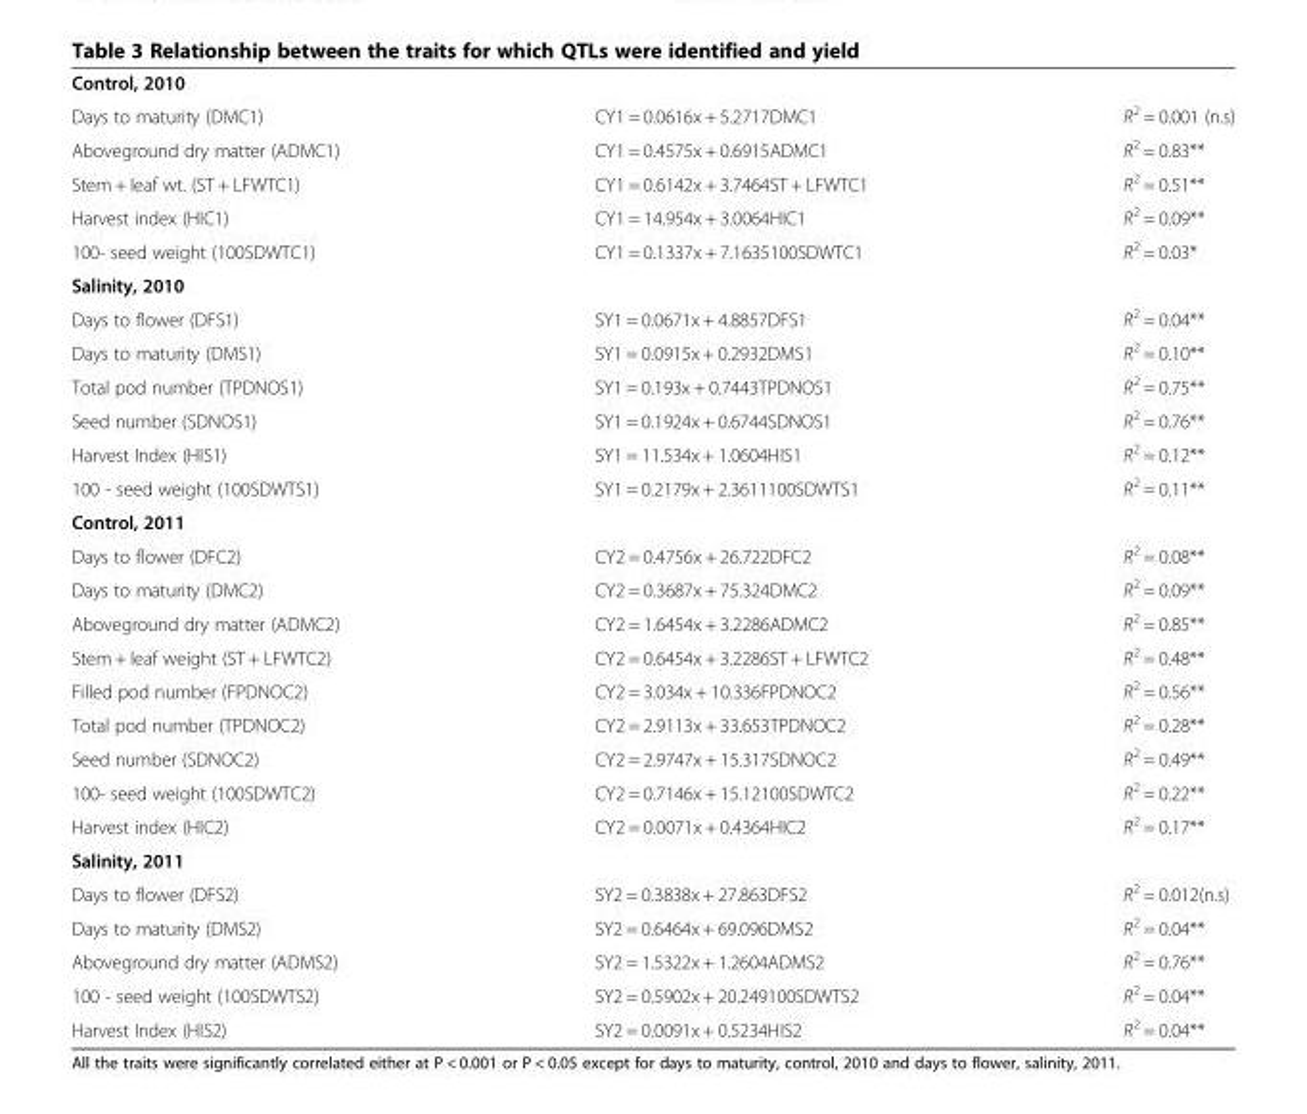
<table><tbody><tr><td colspan="3">Control, 2010</td></tr><tr><td>Days to maturity (DMC1)</td><td>CY1 = 0.0616x + 5.2717DMC1</td><td>R<sup>2</sup> = 0.001 (n.s)</td></tr><tr><td>Aboveground dry matter (ADMC1)</td><td>CY1 = 0.4575x + 0.6915ADMC1</td><td>R<sup>2</sup> = 0.83**</td></tr><tr><td>Stem + leaf wt. (ST + LFWTC1)</td><td>CY1 = 0.6142x + 3.7464ST + LFWTC1</td><td>R<sup>2</sup> = 0.51**</td></tr><tr><td>Harvest index (HIC1)</td><td>CY1 = 14.954x + 3.0064HIC1</td><td>R<sup>2</sup> = 0.09**</td></tr><tr><td>100- seed weight (100SDWTC1)</td><td>CY1 = 0.1337x + 7.1635100SDWTC1</td><td>R<sup>2</sup> = 0.03*</td></tr><tr><td colspan="3">Salinity, 2010</td></tr><tr><td>Days to flower (DFS1)</td><td>SY1 = 0.0671x + 4.8857DFS1</td><td>R<sup>2</sup> = 0.04**</td></tr><tr><td>Days to maturity (DMS1)</td><td>SY1 = 0.0915x + 0.2932DMS1</td><td>R<sup>2</sup> = 0.10**</td></tr><tr><td>Total pod number (TPDNOS1)</td><td>SY1 = 0.193x + 0.7443TPDNOS1</td><td>R<sup>2</sup> = 0.75**</td></tr><tr><td>Seed number (SDNOS1)</td><td>SY1 = 0.1924x + 0.6744SDNOS1</td><td>R<sup>2</sup> = 0.76**</td></tr><tr><td>Harvest Index (HIS1)</td><td>SY1 = 11.534x + 1.0604HIS1</td><td>R<sup>2</sup> = 0.12**</td></tr><tr><td>100 - seed weight (100SDWTS1)</td><td>SY1 = 0.2179x + 2.3611100SDWTS1</td><td>R<sup>2</sup> = 0.11**</td></tr><tr><td colspan="3">Control, 2011</td></tr><tr><td>Days to flower (DFC2)</td><td>CY2 = 0.4756x + 26.722DFC2</td><td>R<sup>2</sup> = 0.08**</td></tr><tr><td>Days to maturity (DMC2)</td><td>CY2 = 0.3687x + 75.324DMC2</td><td>R<sup>2</sup> = 0.09**</td></tr><tr><td>Aboveground dry matter (ADMC2)</td><td>CY2 = 1.6454x + 3.2286ADMC2</td><td>R<sup>2</sup> = 0.85**</td></tr><tr><td>Stem + leaf weight (ST + LFWTC2)</td><td>CY2 = 0.6454x + 3.2286ST + LFWTC2</td><td>R<sup>2</sup> = 0.48**</td></tr><tr><td>Filled pod number (FPDNOC2)</td><td>CY2 = 3.034x + 10.336FPDNOC2</td><td>R<sup>2</sup> = 0.56**</td></tr><tr><td>Total pod number (TPDNOC2)</td><td>CY2 = 2.9113x + 33.653TPDNOC2</td><td>R<sup>2</sup> = 0.28**</td></tr><tr><td>Seed number (SDNOC2)</td><td>CY2 = 2.9747x + 15.317SDNOC2</td><td>R<sup>2</sup> = 0.49**</td></tr><tr><td>100- seed weight (100SDWTC2)</td><td>CY2 = 0.7146x + 15.12100SDWTC2</td><td>R<sup>2</sup> = 0.22**</td></tr><tr><td>Harvest index (HIC2)</td><td>CY2 = 0.0071x + 0.4364HIC2</td><td>R<sup>2</sup> = 0.17**</td></tr><tr><td colspan="3">Salinity, 2011</td></tr><tr><td>Days to flower (DFS2)</td><td>SY2 = 0.3838x + 27.863DFS2</td><td>R<sup>2</sup> = 0.012(n.s)</td></tr><tr><td>Days to maturity (DMS2)</td><td>SY2 = 0.6464x + 69.096DMS2</td><td>R<sup>2</sup> = 0.04**</td></tr><tr><td>Aboveground dry matter (ADMS2)</td><td>SY2 = 1.5322x + 1.2604ADMS2</td><td>R<sup>2</sup> = 0.76**</td></tr><tr><td>100 - seed weight (100SDWTS2)</td><td>SY2 = 0.5902x + 20.249100SDWTS2</td><td>R<sup>2</sup> = 0.04**</td></tr><tr><td>Harvest Index (HIS2)</td><td>SY2 = 0.0091x + 0.5234HIS2</td><td>R<sup>2</sup> = 0.04**</td></tr></tbody></table>